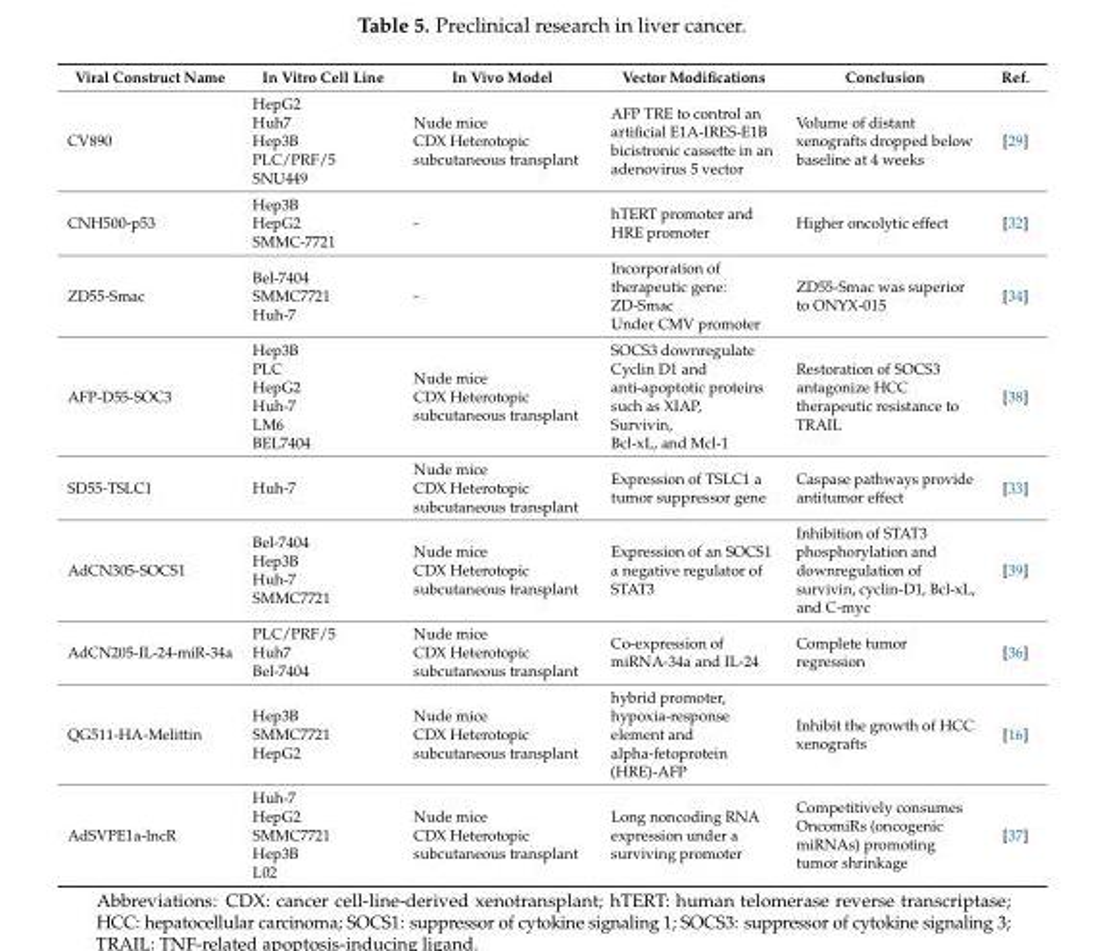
<table><thead><tr><td>Viral Construct Name</td><td>In Vitro Cell Line</td><td>In Vivo Model</td><td>Vector Modifications</td><td>Conclusion</td><td>Ref.</td></tr></thead><tbody><tr><td>CV890</td><td>HepG2 Huh7 Hep3B PLC/PRF/5 SNU449</td><td>Nude mice CDX Heterotopic subcutaneous transplant</td><td>AFP TRE to control an artificial E1A-IRES-E1B bicistronic cassette in an adenovirus 5 vector</td><td>Volume of distant xenografts dropped below baseline at 4 weeks</td><td>[29]</td></tr><tr><td>CNH500-p53</td><td>Hep3B HepG2 SMMC-7721</td><td>-</td><td>hTERT promoter and HRE promoter</td><td>Higher oncolytic effect</td><td>[32]</td></tr><tr><td>ZD55-Smac</td><td>Bel-7404 SMMC7721 Huh-7</td><td>-</td><td>Incorporation of therapeutic gene: ZD-Smac Under CMV promoter</td><td>ZD55-Smac was superior to ONYX-015</td><td>[34]</td></tr><tr><td>AFP-D55-SOC3</td><td>Hep3B PLC HepG2 Huh-7 LM6 BEL7404</td><td>Nude mice CDX Heterotopic subcutaneous transplant</td><td>SOCS3 downregulate Cyclin D1 and anti-apoptotic proteins such as XIAP, Survivin, Bcl-xL, and Mcl-1</td><td>Restoration of SOCS3 antagonize HCC therapeutic resistance to TRAIL</td><td>[38]</td></tr><tr><td>SD55-TSLC1</td><td>Huh-7</td><td>Nude mice CDX Heterotopic subcutaneous transplant</td><td>Expression of TSLC1 a tumor suppressor gene</td><td>Caspase pathways provide antitumor effect</td><td>[33]</td></tr><tr><td>AdCN305-SOCS1</td><td>Bel-7404 Hep3B Huh-7 SMMC7721</td><td>Nude mice CDX Heterotopic subcutaneous transplant</td><td>Expression of an SOCS1 a negative regulator of STAT3</td><td>Inhibition of STAT3 phosphorylation and downregulation of survivin, cyclin-D1, Bcl-xL, and C-myc</td><td>[39]</td></tr><tr><td>AdCN205-IL-24-miR-34a</td><td>PLC/PRF/5 Huh7 Bel-7404</td><td>Nude mice CDX Heterotopic subcutaneous transplant</td><td>Co-expression of miRNA-34a and IL-24</td><td>Complete tumor regression</td><td>[36]</td></tr><tr><td>QG511-HA-Melittin</td><td>Hep3B SMMC7721 HepG2</td><td>Nude mice CDX Heterotopic subcutaneous transplant</td><td>hybrid promoter, hypoxia-response element and alpha-fetoprotein (HRE)-AFP</td><td>Inhibit the growth of HCC xenografts</td><td>[16]</td></tr><tr><td>AdSVPE1a-lncR</td><td>Huh-7 HepG2 SMMC7721 Hep3B L02</td><td>Nude mice CDX Heterotopic subcutaneous transplant</td><td>Long noncoding RNA expression under a surviving promoter</td><td>Competitively consumes OncomiRs (oncogenic miRNAs) promoting tumor shrinkage</td><td>[37]</td></tr></tbody></table>